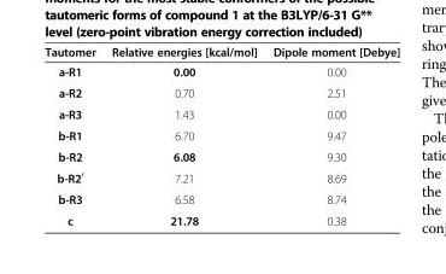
<table><thead><tr><td>Tautomer</td><td>Relative energies [kcal/mol]</td><td>Dipole moment [Debye]</td></tr></thead><tbody><tr><td>a-R1</td><td>0.00</td><td>0.00</td></tr><tr><td>a-R2</td><td>0.70</td><td>2.51</td></tr><tr><td>a-R3</td><td>1.43</td><td>0.00</td></tr><tr><td>b-R1</td><td>6.70</td><td>9.47</td></tr><tr><td>b-R2</td><td>6.08</td><td>9.30</td></tr><tr><td>b-R2<sup>′</sup></td><td>7.21</td><td>8.69</td></tr><tr><td>b-R3</td><td>6.58</td><td>8.74</td></tr><tr><td>c</td><td>21.78</td><td>0.38</td></tr></tbody></table>